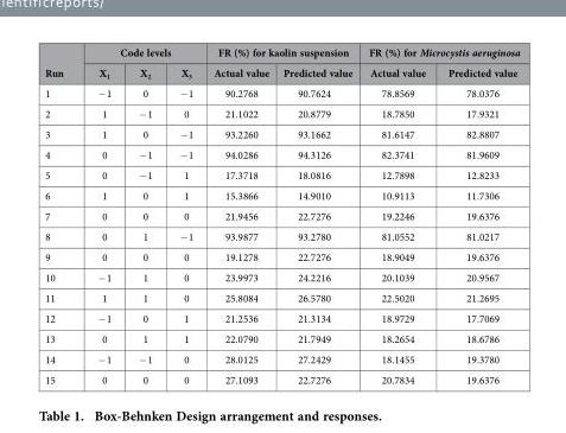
<table><thead><tr><td rowspan="2">Run</td><td colspan="3">Code levels</td><td colspan="2">FR (%) for kaolin suspension</td><td colspan="2">FR (%) for Microcystis aeruginosa</td></tr><tr><td>X<sub>1</sub></td><td>X<sub>2</sub></td><td>X<sub>3</sub></td><td>Actual value</td><td>Predicted value</td><td>Actual value</td><td>Predicted value</td></tr></thead><tbody><tr><td>1</td><td>− 1</td><td>0</td><td>− 1</td><td>90.2768</td><td>90.7624</td><td>78.8569</td><td>78.0376</td></tr><tr><td>2</td><td>1</td><td>− 1</td><td>0</td><td>21.1022</td><td>20.8779</td><td>18.7850</td><td>17.9321</td></tr><tr><td>3</td><td>1</td><td>0</td><td>− 1</td><td>93.2260</td><td>93.1662</td><td>81.6147</td><td>82.8807</td></tr><tr><td>4</td><td>0</td><td>− 1</td><td>− 1</td><td>94.0286</td><td>94.3126</td><td>82.3741</td><td>81.9609</td></tr><tr><td>5</td><td>0</td><td>− 1</td><td>1</td><td>17.3718</td><td>18.0816</td><td>12.7898</td><td>12.8233</td></tr><tr><td>6</td><td>1</td><td>0</td><td>1</td><td>15.3866</td><td>14.9010</td><td>10.9113</td><td>11.7306</td></tr><tr><td>7</td><td>0</td><td>0</td><td>0</td><td>21.9456</td><td>22.7276</td><td>19.2246</td><td>19.6376</td></tr><tr><td>8</td><td>0</td><td>1</td><td>− 1</td><td>93.9877</td><td>93.2780</td><td>81.0552</td><td>81.0217</td></tr><tr><td>9</td><td>0</td><td>0</td><td>0</td><td>19.1278</td><td>22.7276</td><td>18.9049</td><td>19.6376</td></tr><tr><td>10</td><td>− 1</td><td>1</td><td>0</td><td>23.9973</td><td>24.2216</td><td>20.1039</td><td>20.9567</td></tr><tr><td>11</td><td>1</td><td>1</td><td>0</td><td>25.8084</td><td>26.5780</td><td>22.5020</td><td>21.2695</td></tr><tr><td>12</td><td>− 1</td><td>0</td><td>1</td><td>21.2536</td><td>21.3134</td><td>18.9729</td><td>17.7069</td></tr><tr><td>13</td><td>0</td><td>1</td><td>1</td><td>22.0790</td><td>21.7949</td><td>18.2654</td><td>18.6786</td></tr><tr><td>14</td><td>− 1</td><td>− 1</td><td>0</td><td>28.0125</td><td>27.2429</td><td>18.1455</td><td>19.3780</td></tr><tr><td>15</td><td>0</td><td>0</td><td>0</td><td>27.1093</td><td>22.7276</td><td>20.7834</td><td>19.6376</td></tr></tbody></table>